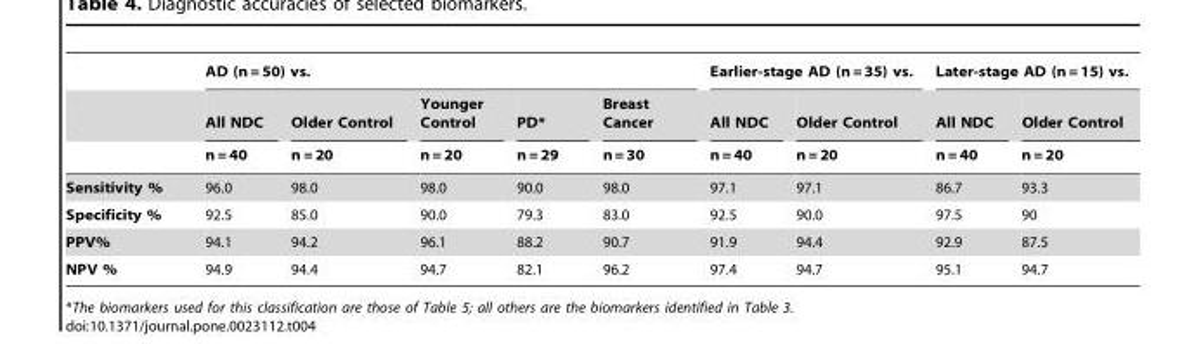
<table><thead><tr><td rowspan="3"></td><td colspan="5">AD (n = 50) vs.</td><td colspan="2">Earlier-stage AD (n = 35) vs.</td><td colspan="2">Later-stage AD (n = 15) vs.</td></tr><tr><td rowspan="2">All NDC n = 40</td><td rowspan="2">Older Control n = 20</td><td rowspan="2">Younger Control n = 20</td><td rowspan="2">PD* n = 29</td><td rowspan="2">Breast Cancer n = 30</td><td rowspan="2">All NDC n = 40</td><td rowspan="2">Older Control n = 20</td><td rowspan="2">All NDC n = 40</td><td rowspan="2">Older Control n = 20</td></tr><tr></tr></thead><tbody><tr><td>Sensitivity %</td><td>96.0</td><td>98.0</td><td>98.0</td><td>90.0</td><td>98.0</td><td>97.1</td><td>97.1</td><td>86.7</td><td>93.3</td></tr><tr><td>Specificity %</td><td>92.5</td><td>85.0</td><td>90.0</td><td>79.3</td><td>83.0</td><td>92.5</td><td>90.0</td><td>97.5</td><td>90</td></tr><tr><td>PPV%</td><td>94.1</td><td>94.2</td><td>96.1</td><td>88.2</td><td>90.7</td><td>91.9</td><td>94.4</td><td>92.9</td><td>87.5</td></tr><tr><td>NPV %</td><td>94.9</td><td>94.4</td><td>94.7</td><td>82.1</td><td>96.2</td><td>97.4</td><td>94.7</td><td>95.1</td><td>94.7</td></tr></tbody></table>